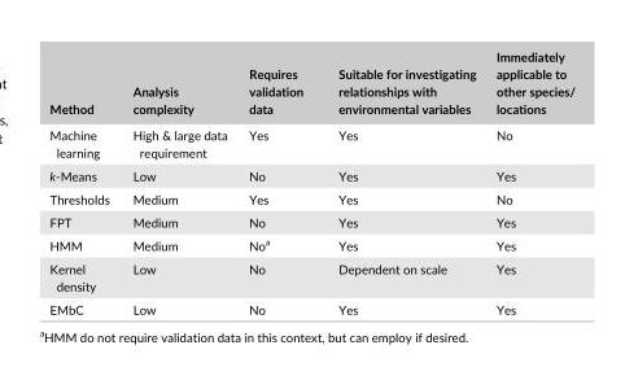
<table><thead><tr><td>Method</td><td>Analysis complexity</td><td>Requires validation data</td><td>Suitable for investigating relationships with environmental variables</td><td>Immediately applicable to other species/ locations</td></tr></thead><tbody><tr><td>Machine learning</td><td>High &amp; large data requirement</td><td>Yes</td><td>Yes</td><td>No</td></tr><tr><td>k- Means</td><td>Low</td><td>No</td><td>Yes</td><td>Yes</td></tr><tr><td>Thresholds</td><td>Medium</td><td>Yes</td><td>Yes</td><td>No</td></tr><tr><td>FPT</td><td>Medium</td><td>No</td><td>Yes</td><td>Yes</td></tr><tr><td>HMM</td><td>Medium</td><td>No<sup>a</sup></td><td>Yes</td><td>Yes</td></tr><tr><td>Kernel density</td><td>Low</td><td>No</td><td>Dependent on scale</td><td>Yes</td></tr><tr><td>EMbC</td><td>Low</td><td>No</td><td>Yes</td><td>Yes</td></tr></tbody></table>